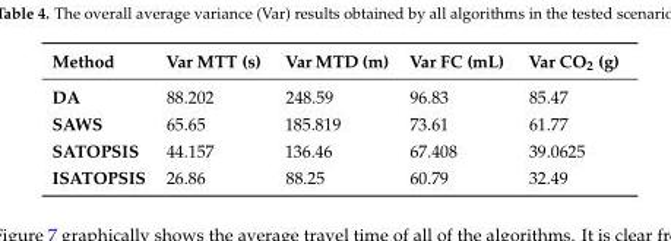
<table><thead><tr><td>Method</td><td>Var MTT (s)</td><td>Var MTD (m)</td><td>Var FC (mL)</td><td>Var CO<sub>2</sub> (g)</td></tr></thead><tbody><tr><td>DA</td><td>88.202</td><td>248.59</td><td>96.83</td><td>85.47</td></tr><tr><td>SAWS</td><td>65.65</td><td>185.819</td><td>73.61</td><td>61.77</td></tr><tr><td>SATOPSIS</td><td>44.157</td><td>136.46</td><td>67.408</td><td>39.0625</td></tr><tr><td>ISATOPSIS</td><td>26.86</td><td>88.25</td><td>60.79</td><td>32.49</td></tr></tbody></table>